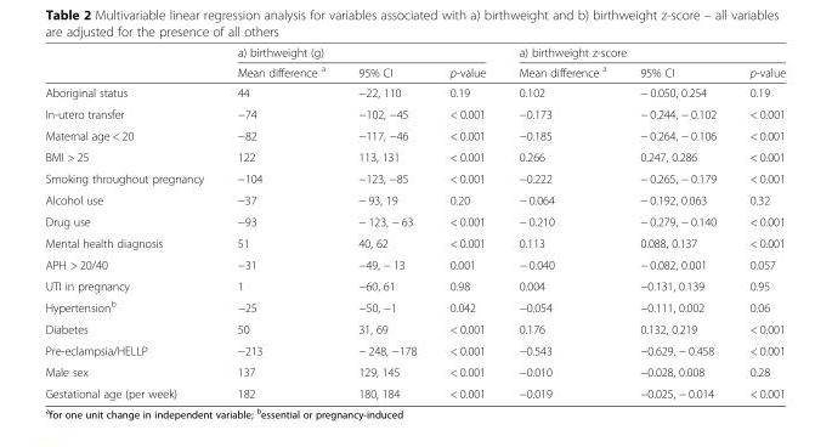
<table><thead><tr><td rowspan="2"></td><td colspan="3">a) birthweight (g)</td><td colspan="3">a) birthweight z-score</td></tr><tr><td>Mean difference <sup>a</sup></td><td>95% CI</td><td>p-value</td><td>Mean difference <sup>a</sup></td><td>95% CI</td><td>p-value</td></tr></thead><tbody><tr><td>Aboriginal status</td><td>44</td><td>−22, 110</td><td>0.19</td><td>0.102</td><td>− 0.050, 0.254</td><td>0.19</td></tr><tr><td>In-utero transfer</td><td>−74</td><td>−102, −45</td><td>&lt; 0.001</td><td>−0.173</td><td>− 0.244, − 0.102</td><td>&lt; 0.001</td></tr><tr><td>Maternal age &lt; 20</td><td>−82</td><td>−117, −46</td><td>&lt; 0.001</td><td>−0.185</td><td>− 0.264, − 0.106</td><td>&lt; 0.001</td></tr><tr><td>BMI &gt; 25</td><td>122</td><td>113, 131</td><td>&lt; 0.001</td><td>0.266</td><td>0.247, 0.286</td><td>&lt; 0.001</td></tr><tr><td>Smoking throughout pregnancy</td><td>−104</td><td>−123, −85</td><td>&lt; 0.001</td><td>−0.222</td><td>− 0.265, − 0.179</td><td>&lt; 0.001</td></tr><tr><td>Alcohol use</td><td>−37</td><td>− 93, 19</td><td>0.20</td><td>− 0.064</td><td>− 0.192, 0.063</td><td>0.32</td></tr><tr><td>Drug use</td><td>−93</td><td>− 123, − 63</td><td>&lt; 0.001</td><td>− 0.210</td><td>− 0.279, − 0.140</td><td>&lt; 0.001</td></tr><tr><td>Mental health diagnosis</td><td>51</td><td>40, 62</td><td>&lt; 0.001</td><td>0.113</td><td>0.088, 0.137</td><td>&lt; 0.001</td></tr><tr><td>APH &gt; 20/40</td><td>−31</td><td>−49, − 13</td><td>0.001</td><td>− 0.040</td><td>− 0.082, 0.001</td><td>0.057</td></tr><tr><td>UTI in pregnancy</td><td>1</td><td>−60, 61</td><td>0.98</td><td>0.004</td><td>−0.131, 0.139</td><td>0.95</td></tr><tr><td>Hypertension<sup>b</sup></td><td>−25</td><td>−50, −1</td><td>0.042</td><td>−0.054</td><td>−0.111, 0.002</td><td>0.06</td></tr><tr><td>Diabetes</td><td>50</td><td>31, 69</td><td>&lt; 0.001</td><td>0.176</td><td>0.132, 0.219</td><td>&lt; 0.001</td></tr><tr><td>Pre-eclampsia/HELLP</td><td>−213</td><td>− 248, −178</td><td>&lt; 0.001</td><td>−0.543</td><td>−0.629, − 0.458</td><td>&lt; 0.001</td></tr><tr><td>Male sex</td><td>137</td><td>129, 145</td><td>&lt; 0.001</td><td>−0.010</td><td>−0.028, 0.008</td><td>0.28</td></tr><tr><td>Gestational age (per week)</td><td>182</td><td>180, 184</td><td>&lt; 0.001</td><td>−0.019</td><td>−0.025, − 0.014</td><td>&lt; 0.001</td></tr></tbody></table>